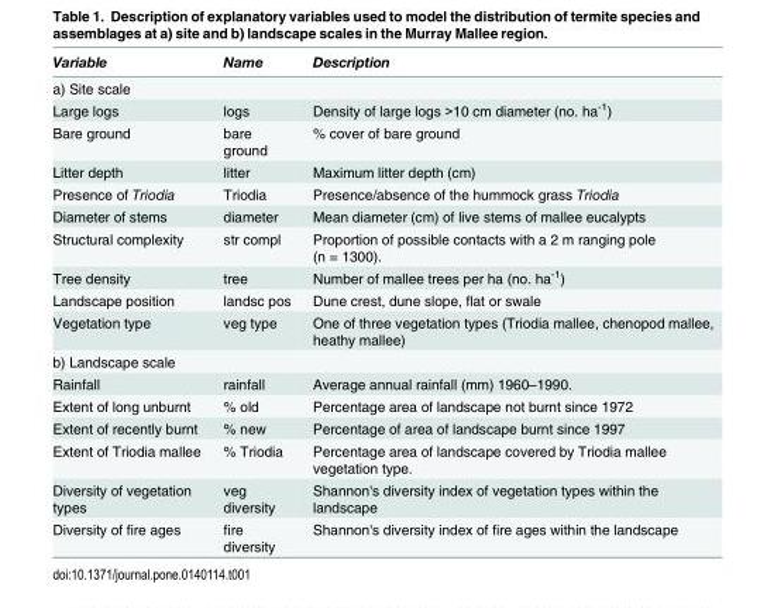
<table><thead><tr><td>Variable</td><td>Name</td><td>Description</td></tr></thead><tbody><tr><td colspan="3">a) Site scale</td></tr><tr><td>Large logs</td><td>logs</td><td>Density of large logs &gt;10 cm diameter (no. ha<sup>-1</sup>)</td></tr><tr><td>Bare ground</td><td>bare ground</td><td>% cover of bare ground</td></tr><tr><td>Litter depth</td><td>litter</td><td>Maximum litter depth (cm)</td></tr><tr><td>Presence of Triodia</td><td>Triodia</td><td>Presence/absence of the hummock grass Triodia</td></tr><tr><td>Diameter of stems</td><td>diameter</td><td>Mean diameter (cm) of live stems of mallee eucalypts</td></tr><tr><td>Structural complexity</td><td>str compl</td><td>Proportion of possible contacts with a 2 m ranging pole (n = 1300).</td></tr><tr><td>Tree density</td><td>tree</td><td>Number of mallee trees per ha (no. ha<sup>-1</sup>)</td></tr><tr><td>Landscape position</td><td>landsc pos</td><td>Dune crest, dune slope, flat or swale</td></tr><tr><td>Vegetation type</td><td>veg type</td><td>One of three vegetation types (Triodia mallee, chenopod mallee, heathy mallee)</td></tr><tr><td colspan="3">b) Landscape scale</td></tr><tr><td>Rainfall</td><td>rainfall</td><td>Average annual rainfall (mm) 1960–1990.</td></tr><tr><td>Extent of long unburnt</td><td>% old</td><td>Percentage area of landscape not burnt since 1972</td></tr><tr><td>Extent of recently burnt</td><td>% new</td><td>Percentage of area of landscape burnt since 1997</td></tr><tr><td>Extent of Triodia mallee</td><td>% Triodia</td><td>Percentage area of landscape covered by Triodia mallee vegetation type.</td></tr><tr><td>Diversity of vegetation types</td><td>veg diversity</td><td>Shannon&#x27;s diversity index of vegetation types within the landscape</td></tr><tr><td>Diversity of fire ages</td><td>fire diversity</td><td>Shannon&#x27;s diversity index of fire ages within the landscape</td></tr></tbody></table>